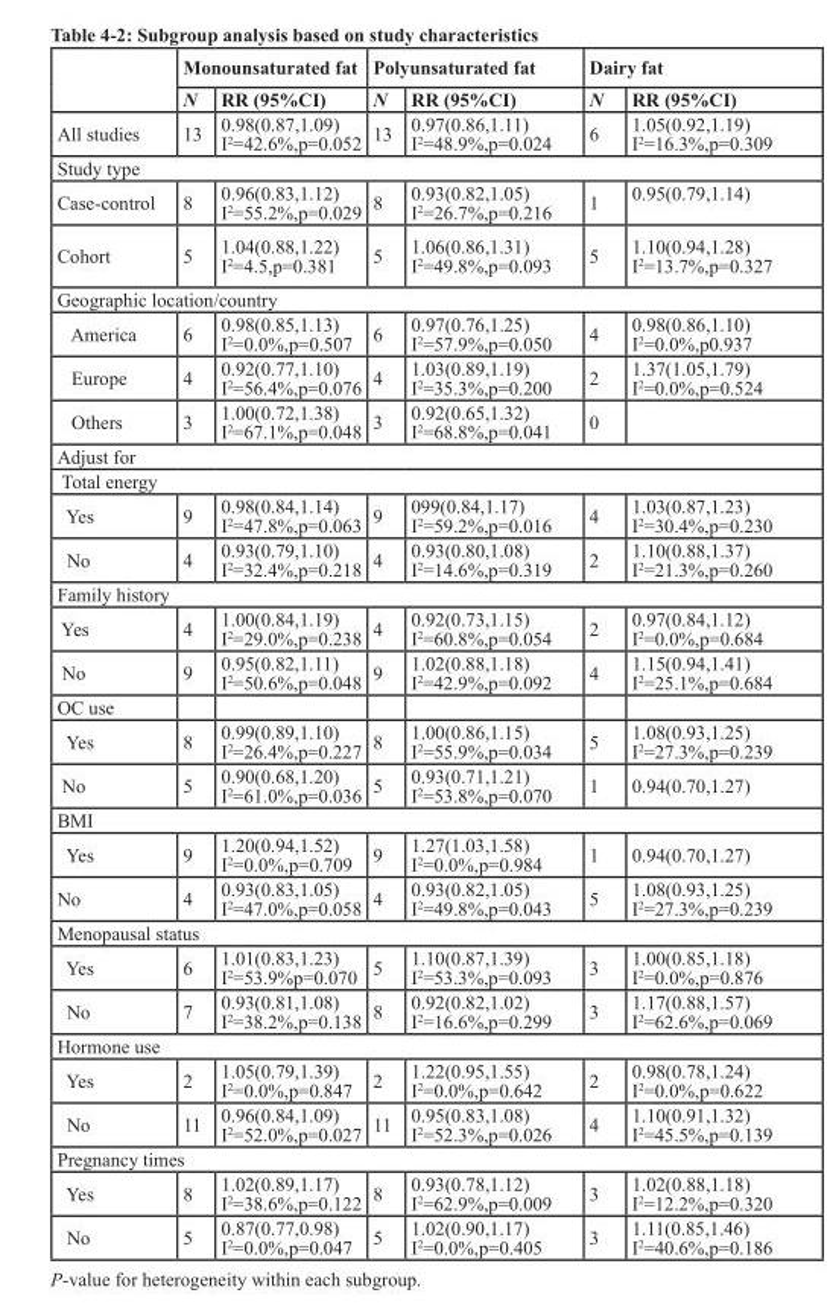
<table><thead><tr><td rowspan="2"></td><td colspan="2">Monounsaturated fat</td><td colspan="2">Polyunsaturated fat</td><td colspan="2">dairy fat</td></tr><tr><td>N</td><td>RR (95%CI)</td><td>N</td><td>RR (95%CI)</td><td>N</td><td>RR (95%CI)</td></tr></thead><tbody><tr><td>All studies</td><td>13</td><td>0.98(0.87,1.09) I<sup>2</sup>=42.6%,p=0.052</td><td>13</td><td>0.97(0.86,1.11) I<sup>2</sup>=48.9%,p=0.024</td><td>6</td><td>1.05(0.92,1.19) I<sup>2</sup>=16.3%,p=0.309</td></tr><tr><td colspan="7">Study type</td></tr><tr><td>Case-control</td><td>8</td><td>0.96(0.83,1.12) I<sup>2</sup>=55.2%,p=0.029</td><td>8</td><td>0.93(0.82,1.05) I<sup>2</sup>=26.7%,p=0.216</td><td>1</td><td>0.95(0.79,1.14)</td></tr><tr><td>Cohort</td><td>5</td><td>1.04(0.88,1.22) I<sup>2</sup>=4.5,p=0.381</td><td>5</td><td>1.06(0.86,1.31) I<sup>2</sup>=49.8%,p=0.093</td><td>5</td><td>1.10(0.94,1.28) I<sup>2</sup>=13.7%,p=0.327</td></tr><tr><td colspan="7">Geographic location/country</td></tr><tr><td>America</td><td>6</td><td>0.98(0.85,1.13) I<sup>2</sup>=0.0%,p=0.507</td><td>6</td><td>0.97(0.76,1.25) I<sup>2</sup>=57.9%,p=0.050</td><td>4</td><td>0.98(0.86,1.10) I<sup>2</sup>=0.0%,p0.937</td></tr><tr><td>Europe</td><td>4</td><td>0.92(0.77,1.10) I<sup>2</sup>=56.4%,p=0.076</td><td>4</td><td>1.03(0.89,1.19) I<sup>2</sup>=35.3%,p=0.200</td><td>2</td><td>1.37(1.05,1.79) I<sup>2</sup>=0.0%,p=0.524</td></tr><tr><td>Others</td><td>3</td><td>1.00(0.72,1.38) I<sup>2</sup>=67.1%,p=0.048</td><td>3</td><td>0.92(0.65,1.32) I<sup>2</sup>=68.8%,p=0.041</td><td>0</td><td></td></tr><tr><td colspan="7">Adjust for</td></tr><tr><td colspan="7">Total energy</td></tr><tr><td>Yes</td><td>9</td><td>0.98(0.84,1.14) I<sup>2</sup>=47.8%,p=0.063</td><td>9</td><td>099(0.84,1.17) I<sup>2</sup>=59.2%,p=0.016</td><td>4</td><td>1.03(0.87,1.23) I<sup>2</sup>=30.4%,p=0.230</td></tr><tr><td>No</td><td>4</td><td>0.93(0.79,1.10) I<sup>2</sup>=32.4%,p=0.218</td><td>4</td><td>0.93(0.80,1.08) I<sup>2</sup>=14.6%,p=0.319</td><td>2</td><td>1.10(0.88,1.37) I<sup>2</sup>=21.3%,p=0.260</td></tr><tr><td colspan="7">Family history</td></tr><tr><td>Yes</td><td>4</td><td>1.00(0.84,1.19) I<sup>2</sup>=29.0%,p=0.238</td><td>4</td><td>0.92(0.73,1.15) I<sup>2</sup>=60.8%,p=0.054</td><td>2</td><td>0.97(0.84,1.12) I<sup>2</sup>=0.0%,p=0.684</td></tr><tr><td>No</td><td>9</td><td>0.95(0.82,1.11) I<sup>2</sup>=50.6%,p=0.048</td><td>9</td><td>1.02(0.88,1.18) I<sup>2</sup>=42.9%,p=0.092</td><td>4</td><td>1.15(0.94,1.41) I<sup>2</sup>=25.1%,p=0.684</td></tr><tr><td colspan="7">OC use</td></tr><tr><td>Yes</td><td>8</td><td>0.99(0.89,1.10) I<sup>2</sup>=26.4%,p=0.227</td><td>8</td><td>1.00(0.86,1.15) I<sup>2</sup>=55.9%,p=0.034</td><td>5</td><td>1.08(0.93,1.25) I<sup>2</sup>=27.3%,p=0.239</td></tr><tr><td>No</td><td>5</td><td>0.90(0.68,1.20) I<sup>2</sup>=61.0%,p=0.036</td><td>5</td><td>0.93(0.71,1.21) I<sup>2</sup>=53.8%,p=0.070</td><td>1</td><td>0.94(0.70,1.27)</td></tr><tr><td colspan="7">BMI</td></tr><tr><td>Yes</td><td>9</td><td>1.20(0.94,1.52) I<sup>2</sup>=0.0%,p=0.709</td><td>9</td><td>1.27(1.03,1.58) I<sup>2</sup>=0.0%,p=0.984</td><td>1</td><td>0.94(0.70,1.27)</td></tr><tr><td>No</td><td>4</td><td>0.93(0.83,1.05) I<sup>2</sup>=47.0%,p=0.058</td><td>4</td><td>0.93(0.82,1.05) I<sup>2</sup>=49.8%,p=0.043</td><td>5</td><td>1.08(0.93,1.25) I<sup>2</sup>=27.3%,p=0.239</td></tr><tr><td colspan="7">Menopausal status</td></tr><tr><td>Yes</td><td>6</td><td>1.01(0.83,1.23) I<sup>2</sup>=53.9%p=0.070</td><td>5</td><td>1.10(0.87,1.39) I<sup>2</sup>=53.3%,p=0.093</td><td>3</td><td>1.00(0.85,1.18) I<sup>2</sup>=0.0%,p=0.876</td></tr><tr><td>No</td><td>7</td><td>0.93(0.81,1.08) I<sup>2</sup>=38.2%,p=0.138</td><td>8</td><td>0.92(0.82,1.02) I<sup>2</sup>=16.6%,p=0.299</td><td>3</td><td>1.17(0.88,1.57) I<sup>2</sup>=62.6%,p=0.069</td></tr><tr><td colspan="7">Hormone use</td></tr><tr><td>Yes</td><td>2</td><td>1.05(0.79,1.39) I<sup>2</sup>=0.0%,p=0.847</td><td>2</td><td>1.22(0.95,1.55) I<sup>2</sup>=0.0%,p=0.642</td><td>2</td><td>0.98(0.78,1.24) I<sup>2</sup>=0.0%,p=0.622</td></tr><tr><td>No</td><td>11</td><td>0.96(0.84,1.09) I<sup>2</sup>=52.0%,p=0.027</td><td>11</td><td>0.95(0.83,1.08) I<sup>2</sup>=52.3%,p=0.026</td><td>4</td><td>1.10(0.91,1.32) I<sup>2</sup>=45.5%,p=0.139</td></tr><tr><td colspan="7">Pregnancy times</td></tr><tr><td>Yes</td><td>8</td><td>1.02(0.89,1.17) I<sup>2</sup>=38.6%,p=0.122</td><td>8</td><td>0.93(0.78,1.12) I<sup>2</sup>=62.9%,p=0.009</td><td>3</td><td>1.02(0.88,1.18) I<sup>2</sup>=12.2%,p=0.320</td></tr><tr><td>No</td><td>5</td><td>0.87(0.77,0.98) I<sup>2</sup>=0.0%,p=0.047</td><td>5</td><td>1.02(0.90,1.17) I<sup>2</sup>=0.0%,p=0.405</td><td>3</td><td>1.11(0.85,1.46) I<sup>2</sup>=40.6%,p=0.186</td></tr></tbody></table>